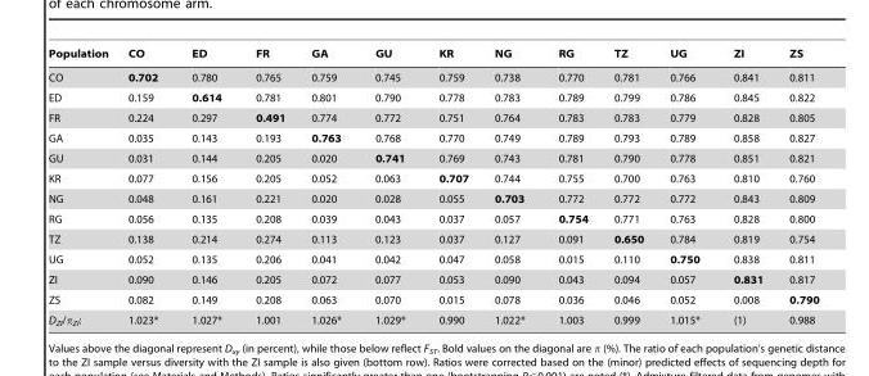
<table><thead><tr><td>Population</td><td>CO</td><td>ED</td><td>FR</td><td>GA</td><td>GU</td><td>KR</td><td>NG</td><td>RG</td><td>TZ</td><td>UG</td><td>ZI</td><td>ZS</td></tr></thead><tbody><tr><td>CO</td><td>0.702</td><td>0.780</td><td>0.765</td><td>0.759</td><td>0.745</td><td>0.759</td><td>0.738</td><td>0.770</td><td>0.781</td><td>0.766</td><td>0.841</td><td>0.811</td></tr><tr><td>ED</td><td>0.159</td><td>0.614</td><td>0.781</td><td>0.801</td><td>0.790</td><td>0.778</td><td>0.783</td><td>0.789</td><td>0.799</td><td>0.786</td><td>0.845</td><td>0.822</td></tr><tr><td>FR</td><td>0.224</td><td>0.297</td><td>0.491</td><td>0.774</td><td>0.772</td><td>0.751</td><td>0.764</td><td>0.783</td><td>0.783</td><td>0.779</td><td>0.828</td><td>0.805</td></tr><tr><td>GA</td><td>0.035</td><td>0.143</td><td>0.193</td><td>0.763</td><td>0.768</td><td>0.770</td><td>0.749</td><td>0.789</td><td>0.793</td><td>0.789</td><td>0.858</td><td>0.827</td></tr><tr><td>GU</td><td>0.031</td><td>0.144</td><td>0.205</td><td>0.020</td><td>0.741</td><td>0.769</td><td>0.743</td><td>0.781</td><td>0.790</td><td>0.778</td><td>0.851</td><td>0.821</td></tr><tr><td>KR</td><td>0.077</td><td>0.156</td><td>0.205</td><td>0.052</td><td>0.063</td><td>0.707</td><td>0.744</td><td>0.755</td><td>0.700</td><td>0.763</td><td>0.810</td><td>0.760</td></tr><tr><td>NG</td><td>0.048</td><td>0.161</td><td>0.221</td><td>0.020</td><td>0.028</td><td>0.055</td><td>0.703</td><td>0.772</td><td>0.772</td><td>0.772</td><td>0.843</td><td>0.809</td></tr><tr><td>RG</td><td>0.056</td><td>0.135</td><td>0.208</td><td>0.039</td><td>0.043</td><td>0.037</td><td>0.057</td><td>0.754</td><td>0.771</td><td>0.763</td><td>0.828</td><td>0.800</td></tr><tr><td>TZ</td><td>0.138</td><td>0.214</td><td>0.274</td><td>0.113</td><td>0.123</td><td>0.037</td><td>0.127</td><td>0.091</td><td>0.650</td><td>0.784</td><td>0.819</td><td>0.754</td></tr><tr><td>UG</td><td>0.052</td><td>0.135</td><td>0.206</td><td>0.041</td><td>0.042</td><td>0.047</td><td>0.058</td><td>0.015</td><td>0.110</td><td>0.750</td><td>0.838</td><td>0.811</td></tr><tr><td>ZI</td><td>0.090</td><td>0.146</td><td>0.205</td><td>0.072</td><td>0.077</td><td>0.053</td><td>0.090</td><td>0.043</td><td>0.094</td><td>0.057</td><td>0.831</td><td>0.817</td></tr><tr><td>ZS</td><td>0.082</td><td>0.149</td><td>0.208</td><td>0.063</td><td>0.070</td><td>0.015</td><td>0.078</td><td>0.036</td><td>0.046</td><td>0.052</td><td>0.008</td><td>0.790</td></tr><tr><td>D<sub>ZI</sub>/π<sub>ZI</sub>:</td><td>1.023*</td><td>1.027*</td><td>1.001</td><td>1.026*</td><td>1.029*</td><td>0.990</td><td>1.022*</td><td>1.003</td><td>0.999</td><td>1.015*</td><td>(1)</td><td>0.988</td></tr></tbody></table>